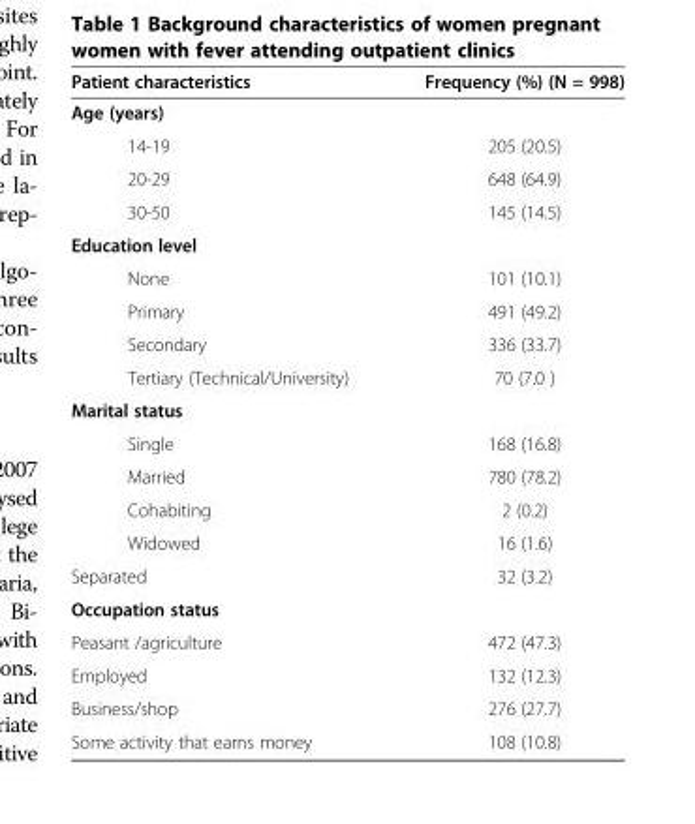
<table><thead><tr><td>Patient characteristics</td><td>Frequency (%) (N = 998)</td></tr></thead><tbody><tr><td colspan="2">Age (years)</td></tr><tr><td>14-19</td><td>205 (20.5)</td></tr><tr><td>20-29</td><td>648 (64.9)</td></tr><tr><td>30-50</td><td>145 (14.5)</td></tr><tr><td colspan="2">Education level</td></tr><tr><td>None</td><td>101 (10.1)</td></tr><tr><td>Primary</td><td>491 (49.2)</td></tr><tr><td>Secondary</td><td>336 (33.7)</td></tr><tr><td>Tertiary (Technical/University)</td><td>70 (7.0 )</td></tr><tr><td colspan="2">Marital status</td></tr><tr><td>Single</td><td>168 (16.8)</td></tr><tr><td>Married</td><td>780 (78.2)</td></tr><tr><td>Cohabiting</td><td>2 (0.2)</td></tr><tr><td>Widowed</td><td>16 (1.6)</td></tr><tr><td>Separated</td><td>32 (3.2)</td></tr><tr><td colspan="2">Occupation status</td></tr><tr><td>Peasant /agriculture</td><td>472 (47.3)</td></tr><tr><td>Employed</td><td>132 (12.3)</td></tr><tr><td>Business/shop</td><td>276 (27.7)</td></tr><tr><td>Some activity that earns money</td><td>108 (10.8)</td></tr></tbody></table>